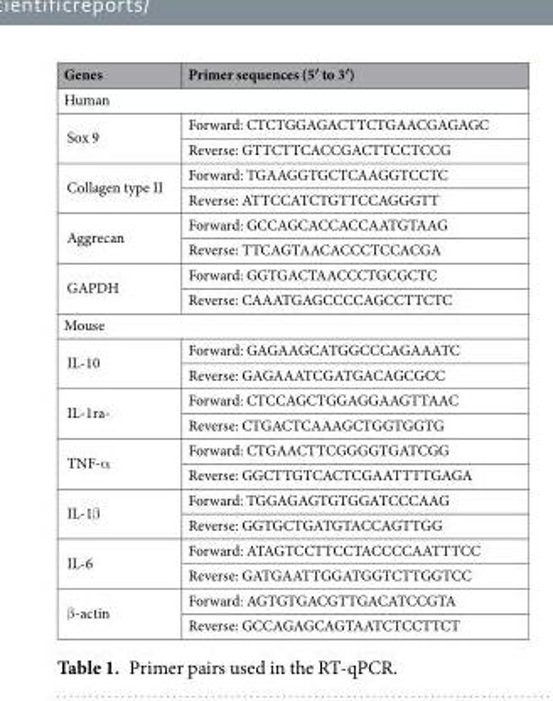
<table><thead><tr><td>Genes</td><td>Primer sequences (5′ to 3′)</td></tr></thead><tbody><tr><td colspan="2">Human</td></tr><tr><td rowspan="2">Sox 9</td><td>Forward: CTCTGGAGACTTCTGAACGAGAGC</td></tr><tr><td>Reverse: GTTCTTCACCGACTTCCTCCG</td></tr><tr><td rowspan="2">Collagen type II</td><td>Forward: TGAAGGTGCTCAAGGTCCTC</td></tr><tr><td>Reverse: ATTCCATCTGTTCCAGGGTT</td></tr><tr><td rowspan="2">Aggrecan</td><td>Forward: GCCAGCACCACCAATGTAAG</td></tr><tr><td>Reverse: TTCAGTAACACCCTCCACGA</td></tr><tr><td rowspan="2">GAPDH</td><td>Forward: GGTGACTAACCCTGCGCTC</td></tr><tr><td>Reverse: CAAATGAGCCCCAGCCTTCTC</td></tr><tr><td colspan="2">Mouse</td></tr><tr><td rowspan="2">IL-10</td><td>Forward: GAGAAGCATGGCCCAGAAATC</td></tr><tr><td>Reverse: GAGAAATCGATGACAGCGCC</td></tr><tr><td rowspan="2">IL-1ra-</td><td>Forward: CTCCAGCTGGAGGAAGTTAAC</td></tr><tr><td>Reverse: CTGACTCAAAGCTGGTGGTG</td></tr><tr><td rowspan="2">TNF-α</td><td>Forward: CTGAACTTCGGGGTGATCGG</td></tr><tr><td>Reverse: GGCTTGTCACTCGAATTTTGAGA</td></tr><tr><td rowspan="2">IL-1β</td><td>Forward: TGGAGAGTGTGGATCCCAAG</td></tr><tr><td>Reverse: GGTGCTGATGTACCAGTTGG</td></tr><tr><td rowspan="2">IL-6</td><td>Forward: ATAGTCCTTCCTACCCCAATTTCC</td></tr><tr><td>Reverse: GATGAATTGGATGGTCTTGGTCC</td></tr><tr><td rowspan="2">β-actin</td><td>Forward: AGTGTGACGTTGACATCCGTA</td></tr><tr><td>Reverse: GCCAGAGCAGTAATCTCCTTCT</td></tr></tbody></table>